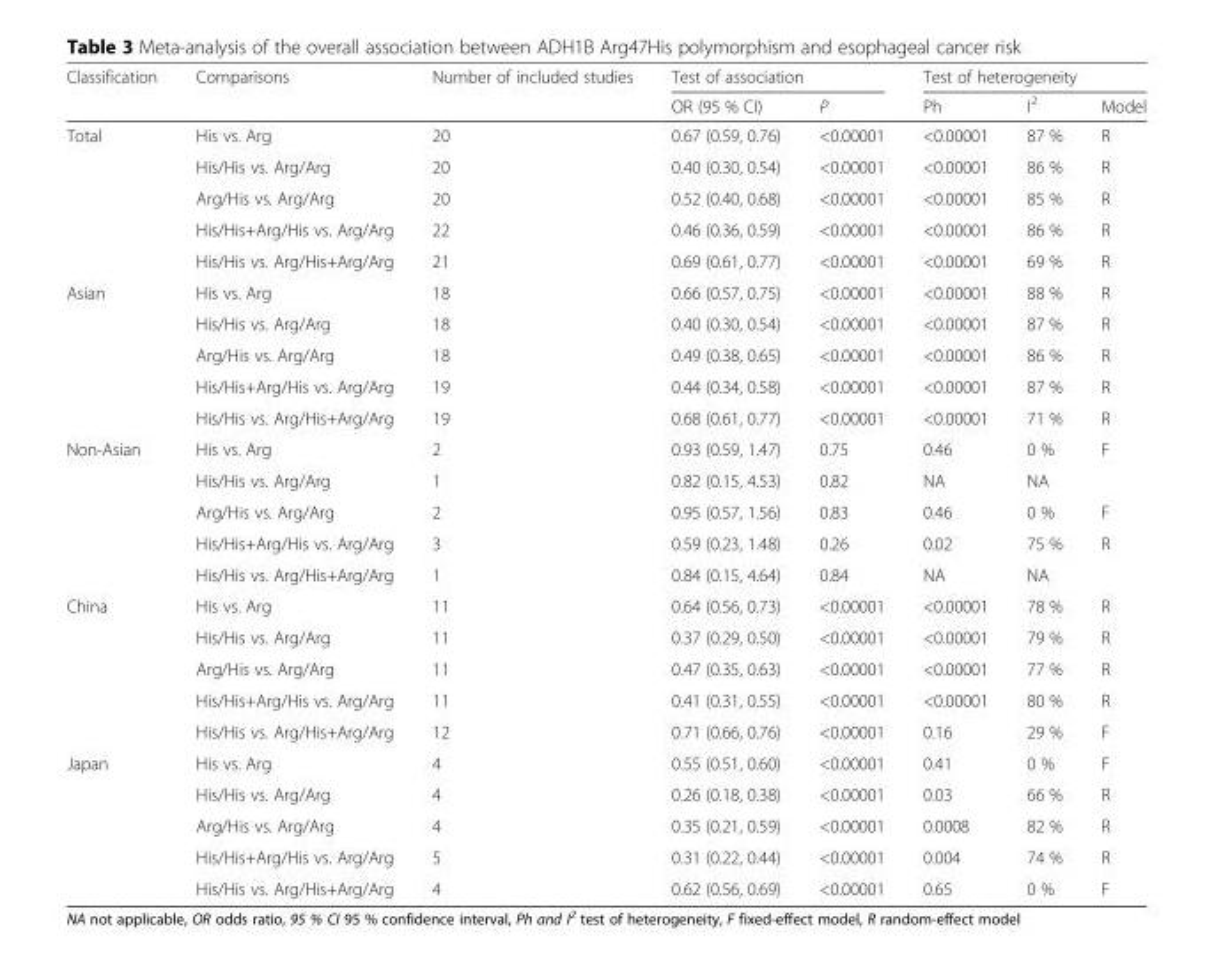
<table><thead><tr><td rowspan="2">Classification</td><td rowspan="2">Comparisons</td><td rowspan="2">Number of included studies</td><td colspan="2">Test of association</td><td colspan="3">Test of heterogeneity</td></tr><tr><td>OR (95 % CI)</td><td>P</td><td>Ph</td><td>I<sup>2</sup></td><td>Model</td></tr></thead><tbody><tr><td rowspan="5">Total</td><td>His vs. Arg</td><td>20</td><td>0.67 (0.59, 0.76)</td><td>&lt;0.00001</td><td>&lt;0.00001</td><td>87 %</td><td>R</td></tr><tr><td>His/His vs. Arg/Arg</td><td>20</td><td>0.40 (0.30, 0.54)</td><td>&lt;0.00001</td><td>&lt;0.00001</td><td>86 %</td><td>R</td></tr><tr><td>Arg/His vs. Arg/Arg</td><td>20</td><td>0.52 (0.40, 0.68)</td><td>&lt;0.00001</td><td>&lt;0.00001</td><td>85 %</td><td>R</td></tr><tr><td>His/His+Arg/His vs. Arg/Arg</td><td>22</td><td>0.46 (0.36, 0.59)</td><td>&lt;0.00001</td><td>&lt;0.00001</td><td>86 %</td><td>R</td></tr><tr><td>His/His vs. Arg/His+Arg/Arg</td><td>21</td><td>0.69 (0.61, 0.77)</td><td>&lt;0.00001</td><td>&lt;0.00001</td><td>69 %</td><td>R</td></tr><tr><td rowspan="5">Asian</td><td>His vs. Arg</td><td>18</td><td>0.66 (0.57, 0.75)</td><td>&lt;0.00001</td><td>&lt;0.00001</td><td>88 %</td><td>R</td></tr><tr><td>His/His vs. Arg/Arg</td><td>18</td><td>0.40 (0.30, 0.54)</td><td>&lt;0.00001</td><td>&lt;0.00001</td><td>87 %</td><td>R</td></tr><tr><td>Arg/His vs. Arg/Arg</td><td>18</td><td>0.49 (0.38, 0.65)</td><td>&lt;0.00001</td><td>&lt;0.00001</td><td>86 %</td><td>R</td></tr><tr><td>His/His+Arg/His vs. Arg/Arg</td><td>19</td><td>0.44 (0.34, 0.58)</td><td>&lt;0.00001</td><td>&lt;0.00001</td><td>87 %</td><td>R</td></tr><tr><td>His/His vs. Arg/His+Arg/Arg</td><td>19</td><td>0.68 (0.61, 0.77)</td><td>&lt;0.00001</td><td>&lt;0.00001</td><td>71 %</td><td>R</td></tr><tr><td rowspan="5">Non-Asian</td><td>His vs. Arg</td><td>2</td><td>0.93 (0.59, 1.47)</td><td>0.75</td><td>0.46</td><td>0 %</td><td>F</td></tr><tr><td>His/His vs. Arg/Arg</td><td>1</td><td>0.82 (0.15, 4.53)</td><td>0.82</td><td>NA</td><td>NA</td><td></td></tr><tr><td>Arg/His vs. Arg/Arg</td><td>2</td><td>0.95 (0.57, 1.56)</td><td>0.83</td><td>0.46</td><td>0 %</td><td>F</td></tr><tr><td>His/His+Arg/His vs. Arg/Arg</td><td>3</td><td>0.59 (0.23, 1.48)</td><td>0.26</td><td>0.02</td><td>75 %</td><td>R</td></tr><tr><td>His/His vs. Arg/His+Arg/Arg</td><td>1</td><td>0.84 (0.15, 4.64)</td><td>0.84</td><td>NA</td><td>NA</td><td></td></tr><tr><td rowspan="5">China</td><td>His vs. Arg</td><td>11</td><td>0.64 (0.56, 0.73)</td><td>&lt;0.00001</td><td>&lt;0.00001</td><td>78 %</td><td>R</td></tr><tr><td>His/His vs. Arg/Arg</td><td>11</td><td>0.37 (0.29, 0.50)</td><td>&lt;0.00001</td><td>&lt;0.00001</td><td>79 %</td><td>R</td></tr><tr><td>Arg/His vs. Arg/Arg</td><td>11</td><td>0.47 (0.35, 0.63)</td><td>&lt;0.00001</td><td>&lt;0.00001</td><td>77 %</td><td>R</td></tr><tr><td>His/His+Arg/His vs. Arg/Arg</td><td>11</td><td>0.41 (0.31, 0.55)</td><td>&lt;0.00001</td><td>&lt;0.00001</td><td>80 %</td><td>R</td></tr><tr><td>His/His vs. Arg/His+Arg/Arg</td><td>12</td><td>0.71 (0.66, 0.76)</td><td>&lt;0.00001</td><td>0.16</td><td>29 %</td><td>F</td></tr><tr><td rowspan="5">Japan</td><td>His vs. Arg</td><td>4</td><td>0.55 (0.51, 0.60)</td><td>&lt;0.00001</td><td>0.41</td><td>0 %</td><td>F</td></tr><tr><td>His/His vs. Arg/Arg</td><td>4</td><td>0.26 (0.18, 0.38)</td><td>&lt;0.00001</td><td>0.03</td><td>66 %</td><td>R</td></tr><tr><td>Arg/His vs. Arg/Arg</td><td>4</td><td>0.35 (0.21, 0.59)</td><td>&lt;0.00001</td><td>0.0008</td><td>82 %</td><td>R</td></tr><tr><td>His/His+Arg/His vs. Arg/Arg</td><td>5</td><td>0.31 (0.22, 0.44)</td><td>&lt;0.00001</td><td>0.004</td><td>74 %</td><td>R</td></tr><tr><td>His/His vs. Arg/His+Arg/Arg</td><td>4</td><td>0.62 (0.56, 0.69)</td><td>&lt;0.00001</td><td>0.65</td><td>0 %</td><td>F</td></tr></tbody></table>